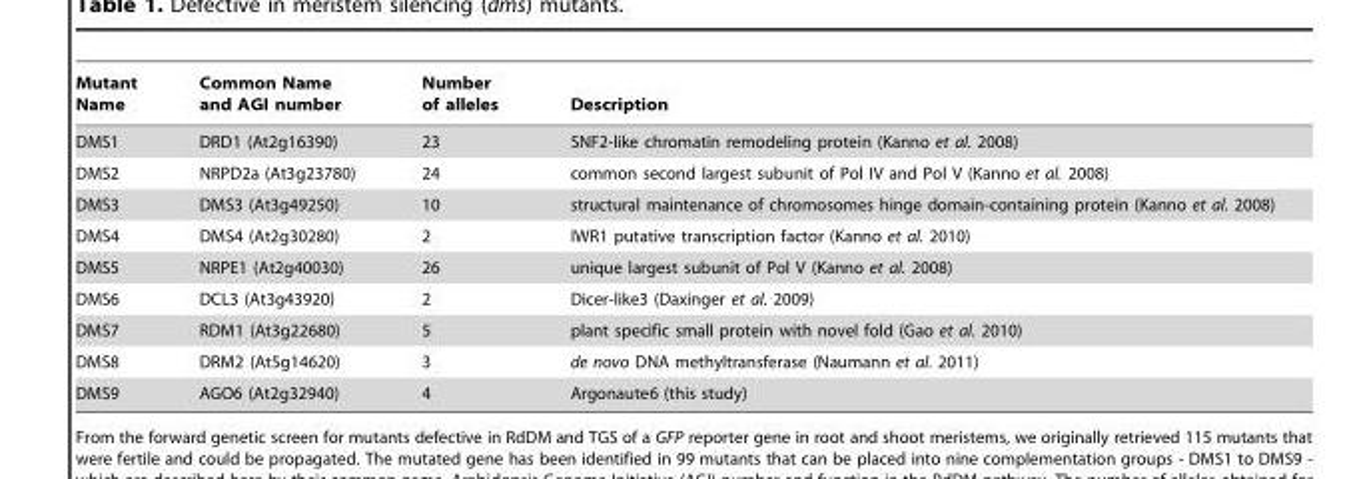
<table><thead><tr><td>Mutant Name</td><td>Common Name and AGI number</td><td>Number of alleles</td><td>Description</td></tr></thead><tbody><tr><td>DMS1</td><td>DRD1 (At2g16390)</td><td>23</td><td>SNF2-like chromatin remodeling protein (Kanno et al. 2008)</td></tr><tr><td>DMS2</td><td>NRPD2a (At3g23780)</td><td>24</td><td>common second largest subunit of Pol IV and Pol V (Kanno et al. 2008)</td></tr><tr><td>DMS3</td><td>DMS3 (At3g49250)</td><td>10</td><td>structural maintenance of chromosomes hinge domain-containing protein (Kanno et al. 2008)</td></tr><tr><td>DMS4</td><td>DMS4 (At2g30280)</td><td>2</td><td>IWR1 putative transcription factor (Kanno et al. 2010)</td></tr><tr><td>DMS5</td><td>NRPE1 (At2g40030)</td><td>26</td><td>unique largest subunit of Pol V (Kanno et al. 2008)</td></tr><tr><td>DMS6</td><td>DCL3 (At3g43920)</td><td>2</td><td>Dicer-like3 (Daxinger et al. 2009)</td></tr><tr><td>DMS7</td><td>RDM1 (At3g22680)</td><td>5</td><td>plant specific small protein with novel fold (Gao et al. 2010)</td></tr><tr><td>DMS8</td><td>DRM2 (At5g14620)</td><td>3</td><td>de novo DNA methyltransferase (Naumann et al. 2011)</td></tr><tr><td>DMS9</td><td>AGO6 (At2g32940)</td><td>4</td><td>Argonaute6 (this study)</td></tr></tbody></table>